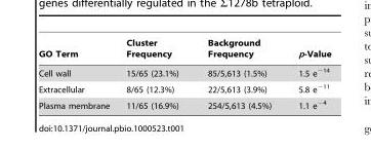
<table><thead><tr><td>GO Term</td><td>Cluster Frequency</td><td>Background Frequency</td><td>p-Value</td></tr></thead><tbody><tr><td>Cell wall</td><td>15/65 (23.1%)</td><td>85/5,613 (1.5%)</td><td>1.5 e<sup>−14</sup></td></tr><tr><td>Extracellular</td><td>8/65 (12.3%)</td><td>22/5,613 (3.9%)</td><td>5.8 e<sup>−11</sup></td></tr><tr><td>Plasma membrane</td><td>11/65 (16.9%)</td><td>254/5,613 (4.5%)</td><td>1.1 e<sup>−4</sup></td></tr></tbody></table>